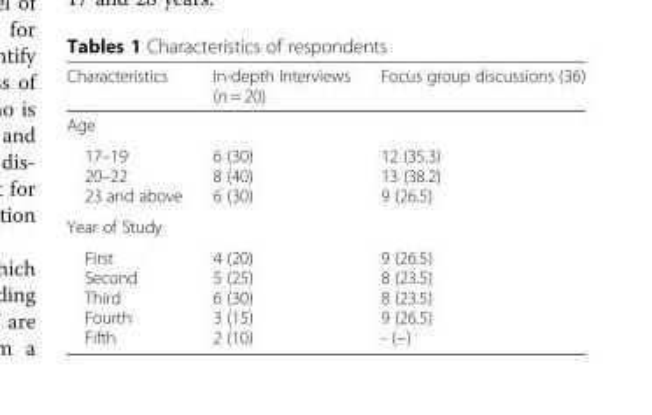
<table><thead><tr><td>Characteristics</td><td>In-depth Interviews (n = 20)</td><td>Focus group discussions (36)</td></tr></thead><tbody><tr><td colspan="3">Age</td></tr><tr><td>17–19 20–22 23 and above</td><td>6 (30) 8 (40) 6 (30)</td><td>12 (35.3) 13 (38.2) 9 (26.5)</td></tr><tr><td colspan="3">Year of Study</td></tr><tr><td>First Second Third Fourth Fifth</td><td>4 (20) 5 (25) 6 (30) 3 (15) 2 (10)</td><td>9 (26.5) 8 (23.5) 8 (23.5) 9 (26.5) - (−)</td></tr></tbody></table>